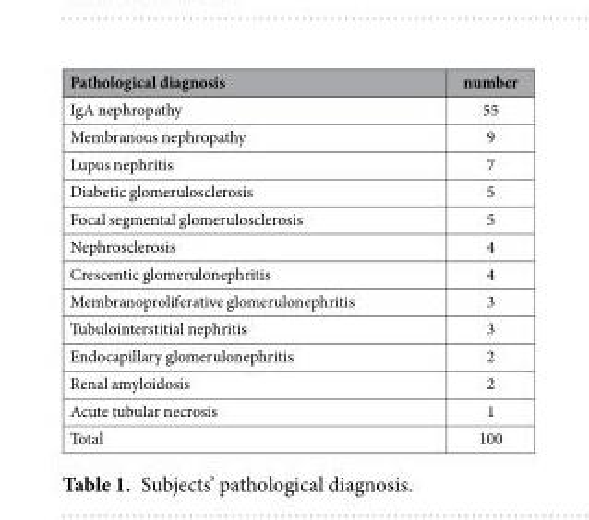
<table><thead><tr><td>Pathological diagnosis</td><td>number</td></tr></thead><tbody><tr><td>IgA nephropathy</td><td>55</td></tr><tr><td>Membranous nephropathy</td><td>9</td></tr><tr><td>Lupus nephritis</td><td>7</td></tr><tr><td>Diabetic glomerulosclerosis</td><td>5</td></tr><tr><td>Focal segmental glomerulosclerosis</td><td>5</td></tr><tr><td>Nephrosclerosis</td><td>4</td></tr><tr><td>Crescentic glomerulonephritis</td><td>4</td></tr><tr><td>Membranoproliferative glomerulonephritis</td><td>3</td></tr><tr><td>Tubulointerstitial nephritis</td><td>3</td></tr><tr><td>Endocapillary glomerulonephritis</td><td>2</td></tr><tr><td>Renal amyloidosis</td><td>2</td></tr><tr><td>Acute tubular necrosis</td><td>1</td></tr><tr><td>Total</td><td>100</td></tr></tbody></table>